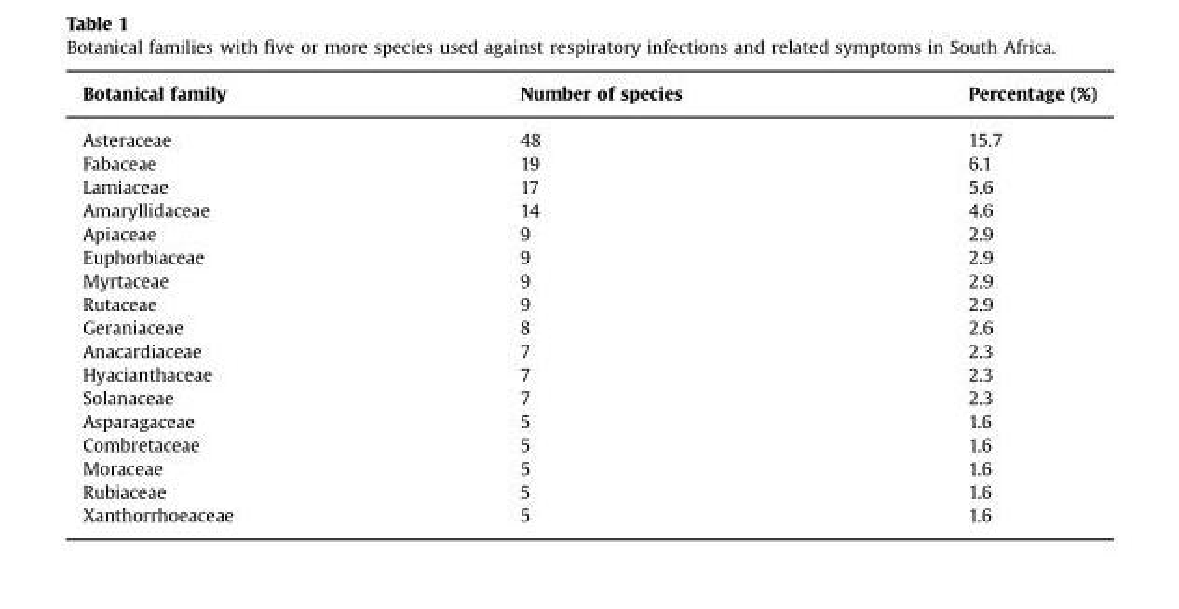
<table><thead><tr><td>Botanical family</td><td>Number of species</td><td>Percentage (%)</td></tr></thead><tbody><tr><td>Asteraceae</td><td>48</td><td>15.7</td></tr><tr><td>Fabaceae</td><td>19</td><td>6.1</td></tr><tr><td>Lamiaceae</td><td>17</td><td>5.6</td></tr><tr><td>Amaryllidaceae</td><td>14</td><td>4.6</td></tr><tr><td>Apiaceae</td><td>9</td><td>2.9</td></tr><tr><td>Euphorbiaceae</td><td>9</td><td>2.9</td></tr><tr><td>Myrtaceae</td><td>9</td><td>2.9</td></tr><tr><td>Rutaceae</td><td>9</td><td>2.9</td></tr><tr><td>Geraniaceae</td><td>8</td><td>2.6</td></tr><tr><td>Anacardiaceae</td><td>7</td><td>2.3</td></tr><tr><td>Hyacianthaceae</td><td>7</td><td>2.3</td></tr><tr><td>Solanaceae</td><td>7</td><td>2.3</td></tr><tr><td>Asparagaceae</td><td>5</td><td>1.6</td></tr><tr><td>Combretaceae</td><td>5</td><td>1.6</td></tr><tr><td>Moraceae</td><td>5</td><td>1.6</td></tr><tr><td>Rubiaceae</td><td>5</td><td>1.6</td></tr><tr><td>Xanthorrhoeaceae</td><td>5</td><td>1.6</td></tr></tbody></table>